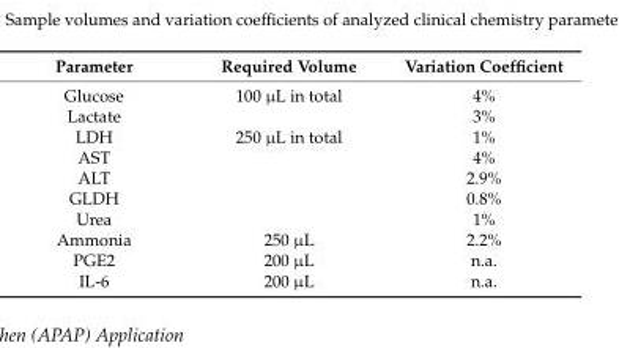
<table><thead><tr><td>Parameter</td><td>Required Volume</td><td>Variation Coefficient</td></tr></thead><tbody><tr><td>Glucose</td><td>100 µL in total</td><td>4%</td></tr><tr><td>Lactate</td><td></td><td>3%</td></tr><tr><td>LDH</td><td>250 µL in total</td><td>1%</td></tr><tr><td>AST</td><td></td><td>4%</td></tr><tr><td>ALT</td><td></td><td>2.9%</td></tr><tr><td>GLDH</td><td></td><td>0.8%</td></tr><tr><td>Urea</td><td></td><td>1%</td></tr><tr><td>Ammonia</td><td>250 µL</td><td>2.2%</td></tr><tr><td>PGE2</td><td>200 µL</td><td>n.a.</td></tr><tr><td>IL-6</td><td>200 µL</td><td>n.a.</td></tr></tbody></table>